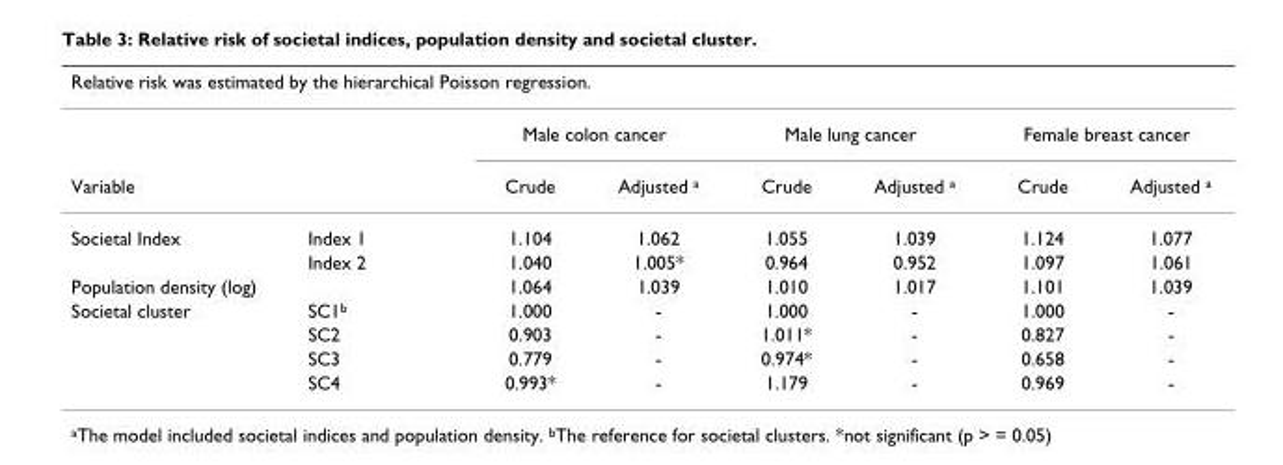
<table><thead><tr><td colspan="8">Relative risk was estimated by the hierarchical Poisson regression.</td></tr><tr><td></td><td></td><td colspan="2">Male colon cancer</td><td colspan="2">Male lung cancer</td><td colspan="2">Female breast cancer</td></tr><tr><td colspan="2">Variable</td><td>Crude</td><td>Adjusted <sup>a</sup></td><td>Crude</td><td>Adjusted <sup>a</sup></td><td>Crude</td><td>Adjusted <sup>a</sup></td></tr></thead><tbody><tr><td rowspan="2">Societal Index</td><td>Index 1</td><td>1.104</td><td>1.062</td><td>1.055</td><td>1.039</td><td>1.124</td><td>1.077</td></tr><tr><td>Index 2</td><td>1.040</td><td>1.005*</td><td>0.964</td><td>0.952</td><td>1.097</td><td>1.061</td></tr><tr><td colspan="2">Population density (log)</td><td>1.064</td><td>1.039</td><td>1.010</td><td>1.017</td><td>1.101</td><td>1.039</td></tr><tr><td rowspan="4">Societal cluster</td><td>SC1<sup>b</sup></td><td>1.000</td><td>-</td><td>1.000</td><td>-</td><td>1.000</td><td>-</td></tr><tr><td>SC2</td><td>0.903</td><td>-</td><td>1.011*</td><td>-</td><td>0.827</td><td>-</td></tr><tr><td>SC3</td><td>0.779</td><td>-</td><td>0.974*</td><td>-</td><td>0.658</td><td>-</td></tr><tr><td>SC4</td><td>0.993*</td><td>-</td><td>1.179</td><td>-</td><td>0.969</td><td>-</td></tr></tbody></table>